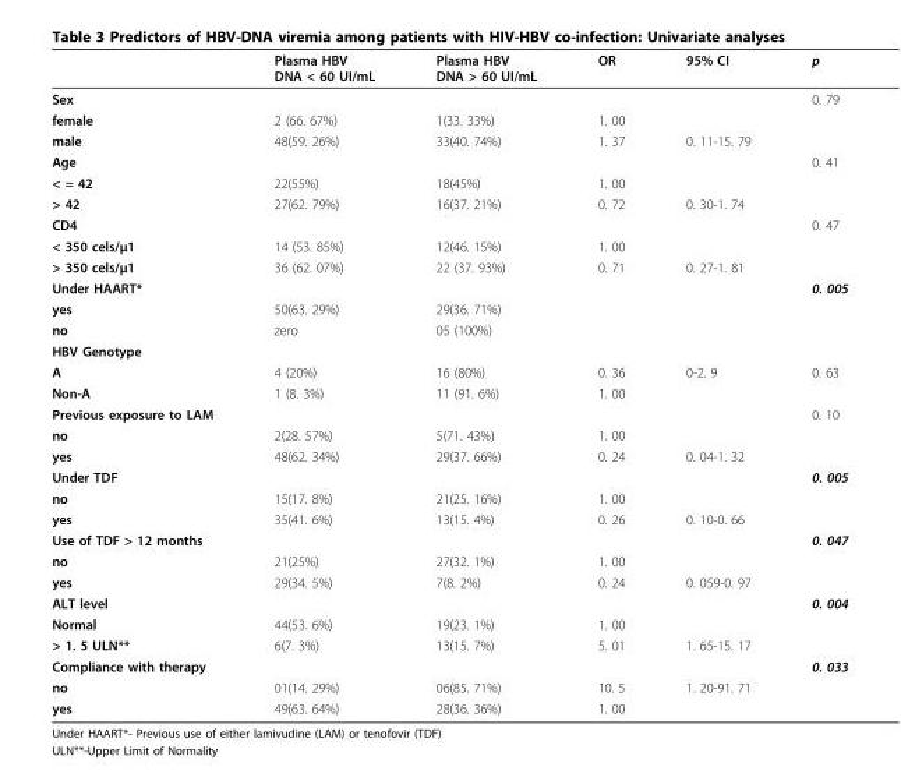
<table><thead><tr><td></td><td>Plasma HBV DNA &lt; 60 UI/mL</td><td>Plasma HBV DNA &gt; 60 UI/mL</td><td>OR</td><td>95% CI</td><td>p</td></tr></thead><tbody><tr><td>Sex</td><td></td><td></td><td></td><td></td><td>0. 79</td></tr><tr><td>female</td><td>2 (66. 67%)</td><td>1(33. 33%)</td><td>1. 00</td><td></td><td></td></tr><tr><td>male</td><td>48(59. 26%)</td><td>33(40. 74%)</td><td>1. 37</td><td>0. 11-15. 79</td><td></td></tr><tr><td>Age</td><td></td><td></td><td></td><td></td><td>0. 41</td></tr><tr><td>&lt; = 42</td><td>22(55%)</td><td>18(45%)</td><td>1. 00</td><td></td><td></td></tr><tr><td>&gt; 42</td><td>27(62. 79%)</td><td>16(37. 21%)</td><td>0. 72</td><td>0. 30-1. 74</td><td></td></tr><tr><td>CD4</td><td></td><td></td><td></td><td></td><td>0. 47</td></tr><tr><td>&lt; 350 cels/μ1</td><td>14 (53. 85%)</td><td>12(46. 15%)</td><td>1. 00</td><td></td><td></td></tr><tr><td>&gt; 350 cels/μ1</td><td>36 (62. 07%)</td><td>22 (37. 93%)</td><td>0. 71</td><td>0. 27-1. 81</td><td></td></tr><tr><td>Under HAART*</td><td></td><td></td><td></td><td></td><td>0. 005</td></tr><tr><td>yes</td><td>50(63. 29%)</td><td>29(36. 71%)</td><td></td><td></td><td></td></tr><tr><td>no</td><td>zero</td><td>05 (100%)</td><td></td><td></td><td></td></tr><tr><td colspan="6">HBV Genotype</td></tr><tr><td>A</td><td>4 (20%)</td><td>16 (80%)</td><td>0. 36</td><td>0-2. 9</td><td>0. 63</td></tr><tr><td>Non-A</td><td>1 (8. 3%)</td><td>11 (91. 6%)</td><td>1. 00</td><td></td><td></td></tr><tr><td>Previous exposure to LAM</td><td></td><td></td><td></td><td></td><td>0. 10</td></tr><tr><td>no</td><td>2(28. 57%)</td><td>5(71. 43%)</td><td>1. 00</td><td></td><td></td></tr><tr><td>yes</td><td>48(62. 34%)</td><td>29(37. 66%)</td><td>0. 24</td><td>0. 04-1. 32</td><td></td></tr><tr><td>Under TDF</td><td></td><td></td><td></td><td></td><td>0. 005</td></tr><tr><td>no</td><td>15(17. 8%)</td><td>21(25. 16%)</td><td>1. 00</td><td></td><td></td></tr><tr><td>yes</td><td>35(41. 6%)</td><td>13(15. 4%)</td><td>0. 26</td><td>0. 10-0. 66</td><td></td></tr><tr><td>Use of TDF &gt; 12 months</td><td></td><td></td><td></td><td></td><td>0. 047</td></tr><tr><td>no</td><td>21(25%)</td><td>27(32. 1%)</td><td>1. 00</td><td></td><td></td></tr><tr><td>yes</td><td>29(34. 5%)</td><td>7(8. 2%)</td><td>0. 24</td><td>0. 059-0. 97</td><td></td></tr><tr><td>ALT level</td><td></td><td></td><td></td><td></td><td>0. 004</td></tr><tr><td>Normal</td><td>44(53. 6%)</td><td>19(23. 1%)</td><td>1. 00</td><td></td><td></td></tr><tr><td>&gt; 1. 5 ULN**</td><td>6(7. 3%)</td><td>13(15. 7%)</td><td>5. 01</td><td>1. 65-15. 17</td><td></td></tr><tr><td>Compliance with therapy</td><td></td><td></td><td></td><td></td><td>0. 033</td></tr><tr><td>no</td><td>01(14. 29%)</td><td>06(85. 71%)</td><td>10. 5</td><td>1. 20-91. 71</td><td></td></tr><tr><td>yes</td><td>49(63. 64%)</td><td>28(36. 36%)</td><td>1. 00</td><td></td><td></td></tr></tbody></table>